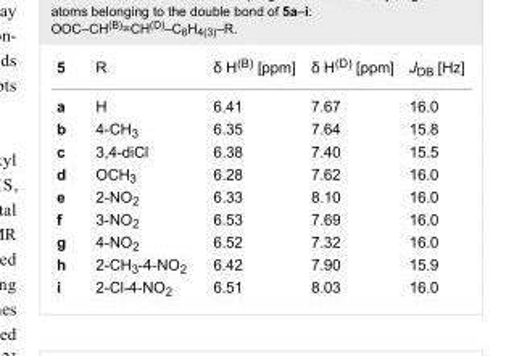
<table><tbody><tr><td>5</td><td>R</td><td>δ H<sup>(B)</sup> [ppm]</td><td>δ H<sup>(D)</sup> [ppm]</td><td>J<sub>DB</sub> [Hz]</td></tr><tr><td>a</td><td>H</td><td>6.41</td><td>7.67</td><td>16.0</td></tr><tr><td>b</td><td>4-CH<sub>3</sub></td><td>6.35</td><td>7.64</td><td>15.8</td></tr><tr><td>c</td><td>3,4-diCl</td><td>6.38</td><td>7.40</td><td>15.5</td></tr><tr><td>d</td><td>OCH<sub>3</sub></td><td>6.28</td><td>7.62</td><td>16.0</td></tr><tr><td>e</td><td>2-NO<sub>2</sub></td><td>6.33</td><td>8.10</td><td>16.0</td></tr><tr><td>f</td><td>3-NO<sub>2</sub></td><td>6.53</td><td>7.69</td><td>16.0</td></tr><tr><td>g</td><td>4-NO<sub>2</sub></td><td>6.52</td><td>7.32</td><td>16.0</td></tr><tr><td>h</td><td>2-CH<sub>3</sub>-4-NO<sub>2</sub></td><td>6.42</td><td>7.90</td><td>15.9</td></tr><tr><td>i</td><td>2-Cl-4-NO<sub>2</sub></td><td>6.51</td><td>8.03</td><td>16.0</td></tr></tbody></table>